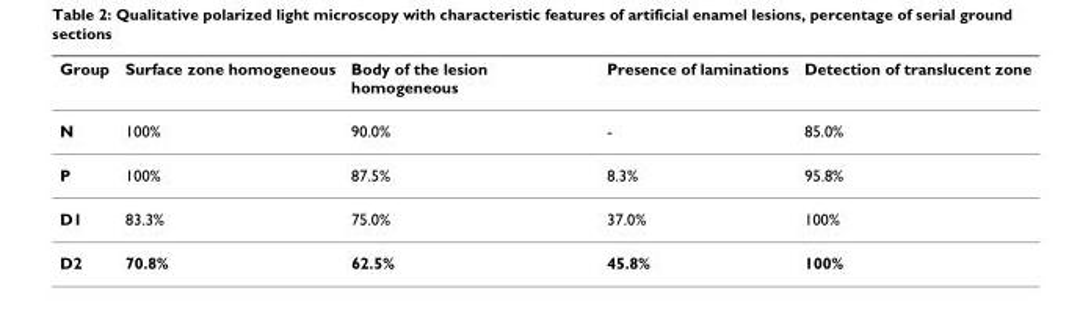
<table><thead><tr><td>Group</td><td>Surface zone homogeneous</td><td>Body of the lesion homogeneous</td><td>Presence of laminations</td><td>Detection of translucent zone</td></tr></thead><tbody><tr><td>N</td><td>100%</td><td>90.0%</td><td>-</td><td>85.0%</td></tr><tr><td>P</td><td>100%</td><td>87.5%</td><td>8.3%</td><td>95.8%</td></tr><tr><td>D1</td><td>83.3%</td><td>75.0%</td><td>37.0%</td><td>100%</td></tr><tr><td>D2</td><td>70.8%</td><td>62.5%</td><td>45.8%</td><td>100%</td></tr></tbody></table>